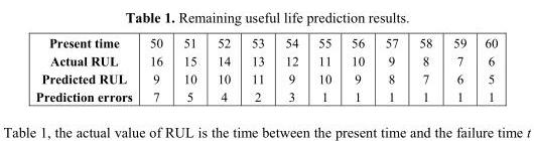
<table><tbody><tr><td>Present time</td><td>50</td><td>51</td><td>52</td><td>53</td><td>54</td><td>55</td><td>56</td><td>57</td><td>58</td><td>59</td><td>60</td></tr><tr><td>Actual RUL</td><td>16</td><td>15</td><td>14</td><td>13</td><td>12</td><td>11</td><td>10</td><td>9</td><td>8</td><td>7</td><td>6</td></tr><tr><td>Predicted RUL</td><td>9</td><td>10</td><td>10</td><td>11</td><td>9</td><td>10</td><td>9</td><td>8</td><td>7</td><td>6</td><td>5</td></tr><tr><td>Prediction errors</td><td>7</td><td>5</td><td>4</td><td>2</td><td>3</td><td>1</td><td>1</td><td>1</td><td>1</td><td>1</td><td>1</td></tr></tbody></table>